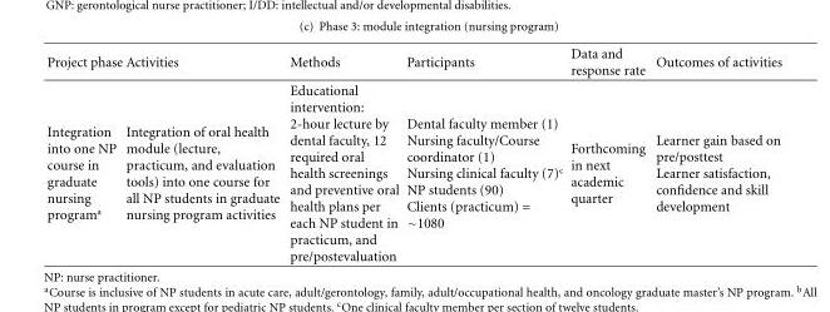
<table><thead><tr><td>Project phase</td><td>Activities</td><td>Methods</td><td>Participants</td><td>Data and response rate</td><td>Outcomes of activities</td></tr></thead><tbody><tr><td>Integration into one NP course in graduate nursing program<sup>a</sup></td><td>Integration of oral health module (lecture, practicum, and evaluation tools) into one course for all NP students in graduate nursing program activities</td><td>Educational intervention: 2-hour lecture by dental faculty, 12 required oral health screenings and preventive oral health plans per each NP student in practicum, and pre/postevaluation</td><td>Dental faculty member (1) Nursing faculty/Course coordinator (1) Nursing clinical faculty (7)c NP students (90) Clients (practicum) = ∼1080</td><td>Forthcoming in next academic quarter</td><td>Learner gain based on pre/posttest Learner satisfaction, confidence and skill development</td></tr></tbody></table>